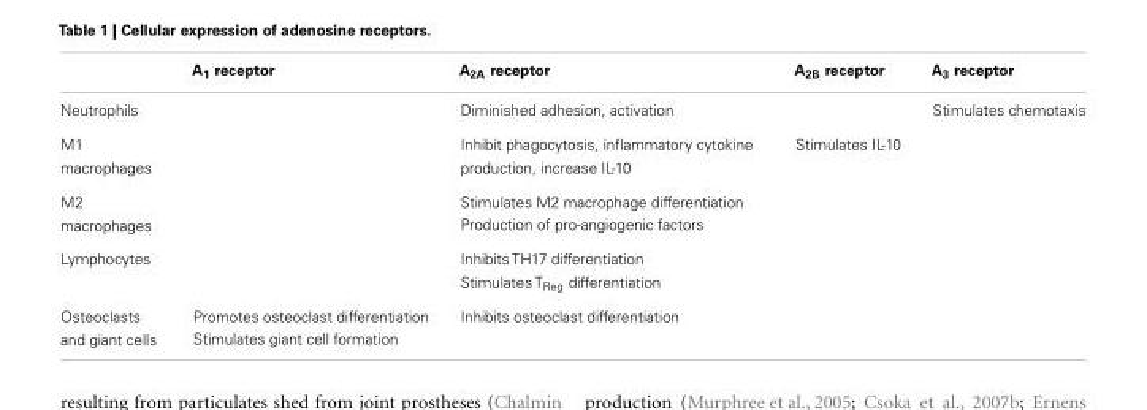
<table><thead><tr><td></td><td>A<sub>1</sub> receptor</td><td>A<sub>2A</sub> receptor</td><td>A<sub>2B</sub> receptor</td><td>A<sub>3</sub> receptor</td></tr></thead><tbody><tr><td>Neutrophils</td><td></td><td>Diminished adhesion, activation</td><td></td><td>Stimulates chemotaxis</td></tr><tr><td>M1 macrophages</td><td></td><td>Inhibit phagocytosis, inflammatory cytokine production, increase IL-10</td><td>Stimulates IL-10</td><td></td></tr><tr><td>M2 macrophages</td><td></td><td>Stimulates M2 macrophage differentiation Production of pro-angiogenic factors</td><td></td><td></td></tr><tr><td>Lymphocytes</td><td></td><td>Inhibits TH17 differentiation Stimulates T<sub>Reg</sub> differentiation</td><td></td><td></td></tr><tr><td>Osteoclasts and giant cells</td><td>Promotes osteoclast differentiation Stimulates giant cell formation</td><td>Inhibits osteoclast differentiation</td><td></td><td></td></tr></tbody></table>